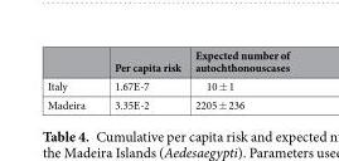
<table><thead><tr><td></td><td>Per capita risk</td><td>Expected number of autochthonouscases</td></tr></thead><tbody><tr><td>Italy</td><td>1.67E-7</td><td>10 ± 1</td></tr><tr><td>Madeira</td><td>3.35E-2</td><td>2205 ± 236</td></tr></tbody></table>